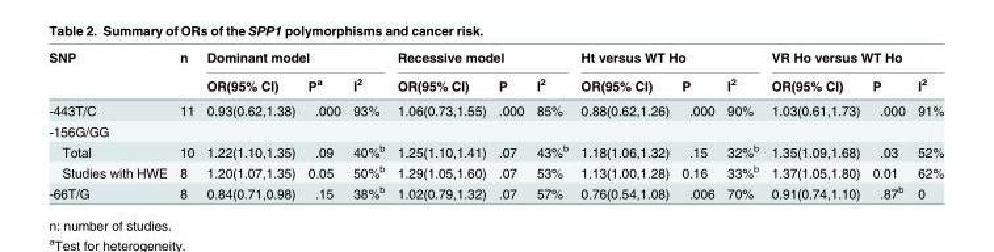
<table><thead><tr><td rowspan="2">SNP</td><td rowspan="2">n</td><td colspan="3">Dominant model</td><td colspan="3">Recessive model</td><td colspan="3">Ht versus WT Ho</td><td colspan="3">VR Ho versus WT Ho</td></tr><tr><td>OR(95% CI)</td><td>P<sup>a</sup></td><td>I<sup>2</sup></td><td>OR(95% CI)</td><td>P</td><td>I<sup>2</sup></td><td>OR(95% CI)</td><td>P</td><td>I<sup>2</sup></td><td>OR(95% CI)</td><td>P</td><td>I<sup>2</sup></td></tr></thead><tbody><tr><td>-443T/C</td><td>11</td><td>0.93(0.62,1.38)</td><td>.000</td><td>93%</td><td>1.06(0.73,1.55)</td><td>.000</td><td>85%</td><td>0.88(0.62,1.26)</td><td>.000</td><td>90%</td><td>1.03(0.61,1.73)</td><td>.000</td><td>91%</td></tr><tr><td colspan="14">-156G/GG</td></tr><tr><td>Total</td><td>10</td><td>1.22(1.10,1.35)</td><td>.09</td><td>40%<sup>b</sup></td><td>1.25(1.10,1.41)</td><td>.07</td><td>43%<sup>b</sup></td><td>1.18(1.06,1.32)</td><td>.15</td><td>32%<sup>b</sup></td><td>1.35(1.09,1.68)</td><td>.03</td><td>52%</td></tr><tr><td>Studies with HWE</td><td>8</td><td>1.20(1.07,1.35)</td><td>0.05</td><td>50%<sup>b</sup></td><td>1.29(1.05,1.60)</td><td>.07</td><td>53%</td><td>1.13(1.00,1.28)</td><td>0.16</td><td>33%<sup>b</sup></td><td>1.37(1.05,1.80)</td><td>0.01</td><td>62%</td></tr><tr><td>-66T/G</td><td>8</td><td>0.84(0.71,0.98)</td><td>.15</td><td>38%<sup>b</sup></td><td>1.02(0.79,1.32)</td><td>.07</td><td>57%</td><td>0.76(0.54,1.08)</td><td>.006</td><td>70%</td><td>0.91(0.74,1.10)</td><td>.87<sup>b</sup></td><td>0</td></tr></tbody></table>